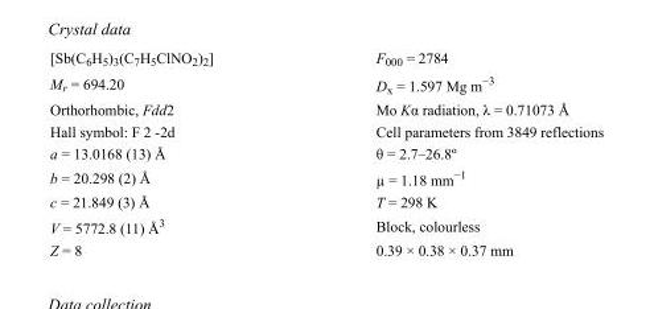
<table><tbody><tr><td>[Sb(C<sub>6</sub>H<sub>5</sub>)<sub>3</sub>(C<sub>7</sub>H<sub>5</sub>ClNO<sub>2</sub>)<sub>2</sub>]</td><td>F000 = 2784</td></tr><tr><td>M<sub>r</sub> = 694.20</td><td>D<sub>x</sub> = 1.597 Mg m<sup>−3</sup></td></tr><tr><td>Orthorhombic, Fdd2</td><td>Mo Kα radiation, λ = 0.71073 Å</td></tr><tr><td>Hall symbol: F 2 -2d</td><td>Cell parameters from 3849 reflections</td></tr><tr><td>a = 13.0168 (13) Å</td><td>θ = 2.7–26.8º</td></tr><tr><td>b = 20.298 (2) Å</td><td>µ = 1.18 mm<sup>−1</sup></td></tr><tr><td>c = 21.849 (3) Å</td><td>T = 298 K</td></tr><tr><td>V = 5772.8 (11) Å<sup>3</sup></td><td>Block, colourless</td></tr><tr><td>Z = 8</td><td>0.39 × 0.38 × 0.37 mm</td></tr></tbody></table>